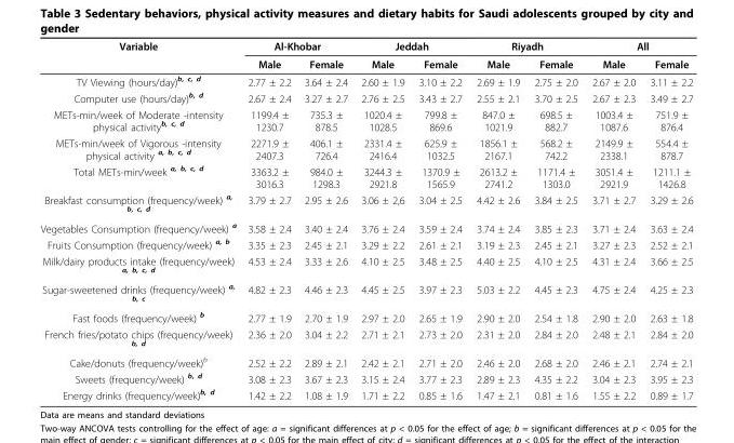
<table><thead><tr><td rowspan="2">Variable</td><td colspan="2">Al-Khobar</td><td colspan="2">Jeddah</td><td colspan="2">Riyadh</td><td colspan="2">All</td></tr><tr><td>Male</td><td>Female</td><td>Male</td><td>Female</td><td>Male</td><td>Female</td><td>Male</td><td>Female</td></tr></thead><tbody><tr><td>TV Viewing (hours/day)<sup>b, c, d</sup></td><td>2.77 ± 2.2</td><td>3.64 ± 2.4</td><td>2.60 ± 1.9</td><td>3.10 ± 2.2</td><td>2.69 ± 1.9</td><td>2.75 ± 2.0</td><td>2.67 ± 2.0</td><td>3.11 ± 2.2</td></tr><tr><td>Computer use (hours/day)<sup>b, d</sup></td><td>2.67 ± 2.4</td><td>3.27 ± 2.7</td><td>2.76 ± 2.5</td><td>3.43 ± 2.7</td><td>2.55 ± 2.1</td><td>3.70 ± 2.5</td><td>2.67 ± 2.3</td><td>3.49 ± 2.7</td></tr><tr><td>METs-min/week of Moderate -intensity physical activity<sup>b, c, d</sup></td><td>1199.4 ± 1230.7</td><td>735.3 ± 878.5</td><td>1020.4 ± 1028.5</td><td>799.8 ± 869.6</td><td>847.0 ± 1021.9</td><td>698.5 ± 882.7</td><td>1003.4 ± 1087.6</td><td>751.9 ± 876.4</td></tr><tr><td>METs-min/week of Vigorous -intensity physical activity <sup>a, b, c, d</sup></td><td>2271.9 ± 2407.3</td><td>406.1 ± 726.4</td><td>2331.4 ± 2416.4</td><td>625.9 ± 1032.5</td><td>1856.1 ± 2167.1</td><td>568.2 ± 742.2</td><td>2149.9 ± 2338.1</td><td>554.4 ± 878.7</td></tr><tr><td>Total METs-min/week <sup>a, b, c, d</sup></td><td>3363.2 ± 3016.3</td><td>984.0 ± 1298.3</td><td>3244.3 ± 2921.8</td><td>1370.9 ± 1565.9</td><td>2613.2 ± 2741.2</td><td>1171.4 ± 1303.0</td><td>3051.4 ± 2921.9</td><td>1211.1 ± 1426.8</td></tr><tr><td>Breakfast consumption (frequency/week) <sup>a, b, c, d</sup></td><td>3.79 ± 2.7</td><td>2.95 ± 2.6</td><td>3.06 ± 2,6</td><td>3.04 ± 2.5</td><td>4.42 ± 2.6</td><td>3.84 ± 2.5</td><td>3.71 ± 2.7</td><td>3.29 ± 2.6</td></tr><tr><td>Vegetables Consumption (frequency/week) <sup>a</sup></td><td>3.58 ± 2.4</td><td>3.40 ± 2.4</td><td>3.76 ± 2.4</td><td>3.59 ± 2.4</td><td>3.74 ± 2.4</td><td>3.85 ± 2.3</td><td>3.71 ± 2.4</td><td>3.63 ± 2.4</td></tr><tr><td>Fruits Consumption (frequency/week) <sup>a, b</sup></td><td>3.35 ± 2.3</td><td>2.45 ± 2.1</td><td>3.29 ± 2.2</td><td>2.61 ± 2.1</td><td>3.19 ± 2.3</td><td>2.45 ± 2.1</td><td>3.27 ± 2.3</td><td>2.52 ± 2.1</td></tr><tr><td>Milk/dairy products intake (frequency/week) <sup>a, b, c, d</sup></td><td>4.53 ± 2.4</td><td>3.33 ± 2.6</td><td>4.10 ± 2.5</td><td>3.48 ± 2.5</td><td>4.40 ± 2.5</td><td>4.10 ± 2.5</td><td>4.31 ± 2.4</td><td>3.66 ± 2.5</td></tr><tr><td>Sugar-sweetened drinks (frequency/week) <sup>a, b, c</sup></td><td>4.82 ± 2.3</td><td>4.46 ± 2.3</td><td>4.45 ± 2.5</td><td>3.97 ± 2.3</td><td>5.03 ± 2.2</td><td>4.45 ± 2.3</td><td>4.75 ± 2.4</td><td>4.25 ± 2.3</td></tr><tr><td>Fast foods (frequency/week) <sup>b</sup></td><td>2.77 ± 1.9</td><td>2.70 ± 1.9</td><td>2.97 ± 2.0</td><td>2.65 ± 1.9</td><td>2.90 ± 2.0</td><td>2.54 ± 1.8</td><td>2.90 ± 2.0</td><td>2.63 ± 1.8</td></tr><tr><td>French fries/potato chips (frequency/week) <sup>b, d</sup></td><td>2.36 ± 2.0</td><td>3.04 ± 2.2</td><td>2.71 ± 2.1</td><td>2.73 ± 2.0</td><td>2.31 ± 2.0</td><td>2.84 ± 2.0</td><td>2.48 ± 2.1</td><td>2.84 ± 2.0</td></tr><tr><td>Cake/donuts (frequency/week)<sup>b</sup></td><td>2.52 ± 2.2</td><td>2.89 ± 2.1</td><td>2.42 ± 2.1</td><td>2.71 ± 2.0</td><td>2.46 ± 2.0</td><td>2.68 ± 2.0</td><td>2.46 ± 2.1</td><td>2.74 ± 2.1</td></tr><tr><td>Sweets (frequency/week) <sup>b, d</sup></td><td>3.08 ± 2.3</td><td>3.67 ± 2.3</td><td>3.15 ± 2.4</td><td>3.77 ± 2.3</td><td>2.89 ± 2.3</td><td>4.35 ± 2.2</td><td>3.04 ± 2.3</td><td>3.95 ± 2.3</td></tr><tr><td>Energy drinks (frequency/week)<sup>b, d</sup></td><td>1.42 ± 2.2</td><td>1.08 ± 1.9</td><td>1.71 ± 2.2</td><td>0.85 ± 1.6</td><td>1.47 ± 2.1</td><td>0.81 ± 1.6</td><td>1.55 ± 2.2</td><td>0.89 ± 1.7</td></tr></tbody></table>